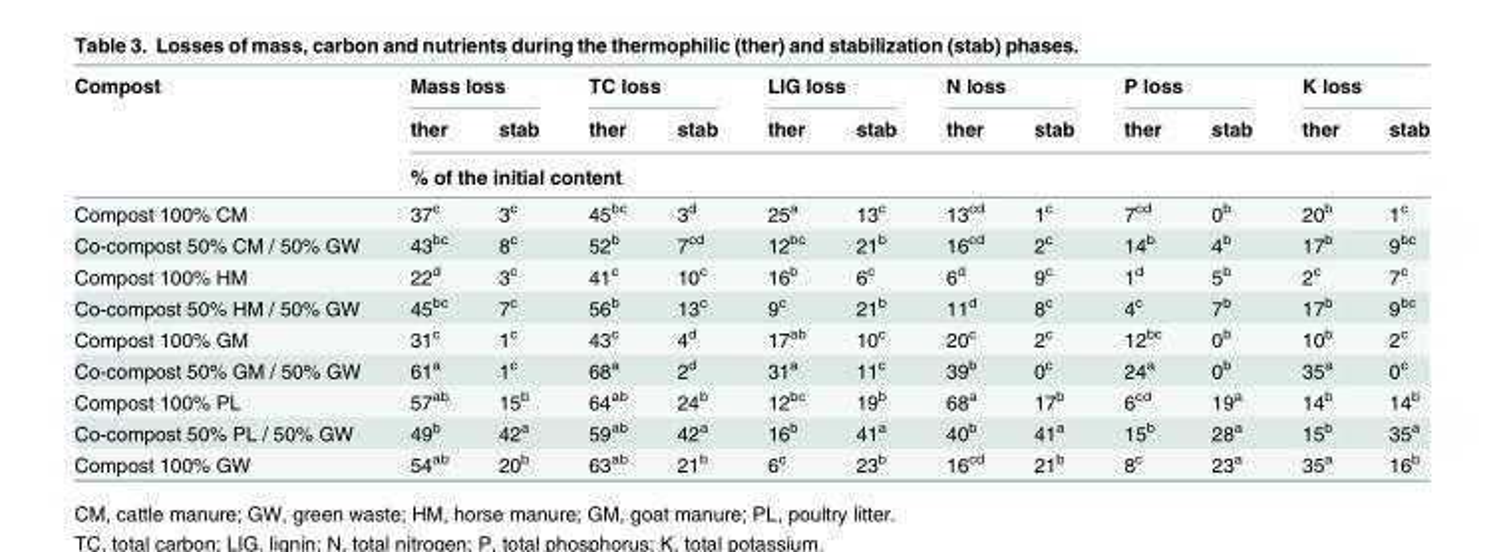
<table><thead><tr><td rowspan="3">Compost</td><td colspan="2">Mass loss</td><td colspan="2">TC loss</td><td colspan="2">LIG loss</td><td colspan="2">N loss</td><td colspan="2">P loss</td><td colspan="2">K loss</td></tr><tr><td>ther</td><td>stab</td><td>ther</td><td>stab</td><td>ther</td><td>stab</td><td>ther</td><td>stab</td><td>ther</td><td>stab</td><td>ther</td><td>stab</td></tr><tr><td colspan="12">% of the initial content</td></tr></thead><tbody><tr><td>Compost 100% CM</td><td>37<sup>c</sup></td><td>3<sup>c</sup></td><td>45<sup>bc</sup></td><td>3<sup>d</sup></td><td>25<sup>a</sup></td><td>13<sup>c</sup></td><td>13<sup>cd</sup></td><td>1<sup>c</sup></td><td>7<sup>cd</sup></td><td>0<sup>b</sup></td><td>20<sup>b</sup></td><td>1<sup>c</sup></td></tr><tr><td>Co-compost 50% CM / 50% GW</td><td>43<sup>bc</sup></td><td>8<sup>c</sup></td><td>52<sup>b</sup></td><td>7<sup>cd</sup></td><td>12<sup>bc</sup></td><td>21<sup>b</sup></td><td>16<sup>cd</sup></td><td>2<sup>c</sup></td><td>14<sup>b</sup></td><td>4<sup>b</sup></td><td>17<sup>b</sup></td><td>9<sup>bc</sup></td></tr><tr><td>Compost 100% HM</td><td>22<sup>d</sup></td><td>3<sup>c</sup></td><td>41<sup>c</sup></td><td>10<sup>c</sup></td><td>16<sup>b</sup></td><td>6<sup>c</sup></td><td>6<sup>d</sup></td><td>9<sup>c</sup></td><td>1<sup>d</sup></td><td>5<sup>b</sup></td><td>2<sup>c</sup></td><td>7<sup>c</sup></td></tr><tr><td>Co-compost 50% HM / 50% GW</td><td>45<sup>bc</sup></td><td>7<sup>c</sup></td><td>56<sup>b</sup></td><td>13<sup>c</sup></td><td>9<sup>c</sup></td><td>21<sup>b</sup></td><td>11<sup>d</sup></td><td>8<sup>c</sup></td><td>4<sup>c</sup></td><td>7<sup>b</sup></td><td>17<sup>b</sup></td><td>9<sup>bc</sup></td></tr><tr><td>Compost 100% GM</td><td>31<sup>c</sup></td><td>1<sup>c</sup></td><td>43<sup>c</sup></td><td>4<sup>d</sup></td><td>17<sup>ab</sup></td><td>10<sup>c</sup></td><td>20<sup>c</sup></td><td>2<sup>c</sup></td><td>12<sup>bc</sup></td><td>0<sup>b</sup></td><td>10<sup>b</sup></td><td>2<sup>c</sup></td></tr><tr><td>Co-compost 50% GM / 50% GW</td><td>61<sup>a</sup></td><td>1<sup>c</sup></td><td>68<sup>a</sup></td><td>2<sup>d</sup></td><td>31<sup>a</sup></td><td>11<sup>c</sup></td><td>39<sup>b</sup></td><td>0<sup>c</sup></td><td>24<sup>a</sup></td><td>0<sup>b</sup></td><td>35<sup>a</sup></td><td>0<sup>c</sup></td></tr><tr><td>Compost 100% PL</td><td>57<sup>ab</sup></td><td>15<sup>b</sup></td><td>64<sup>ab</sup></td><td>24<sup>b</sup></td><td>12<sup>bc</sup></td><td>19<sup>b</sup></td><td>68<sup>a</sup></td><td>17<sup>b</sup></td><td>6<sup>cd</sup></td><td>19<sup>a</sup></td><td>14<sup>b</sup></td><td>14<sup>b</sup></td></tr><tr><td>Co-compost 50% PL / 50% GW</td><td>49<sup>b</sup></td><td>42<sup>a</sup></td><td>59<sup>ab</sup></td><td>42<sup>a</sup></td><td>16<sup>b</sup></td><td>41<sup>a</sup></td><td>40<sup>b</sup></td><td>41<sup>a</sup></td><td>15<sup>b</sup></td><td>28<sup>a</sup></td><td>15<sup>b</sup></td><td>35<sup>a</sup></td></tr><tr><td>Compost 100% GW</td><td>54<sup>ab</sup></td><td>20<sup>b</sup></td><td>63<sup>ab</sup></td><td>21<sup>b</sup></td><td>6<sup>c</sup></td><td>23<sup>b</sup></td><td>16<sup>cd</sup></td><td>21<sup>b</sup></td><td>8<sup>c</sup></td><td>23<sup>a</sup></td><td>35<sup>a</sup></td><td>16<sup>b</sup></td></tr></tbody></table>